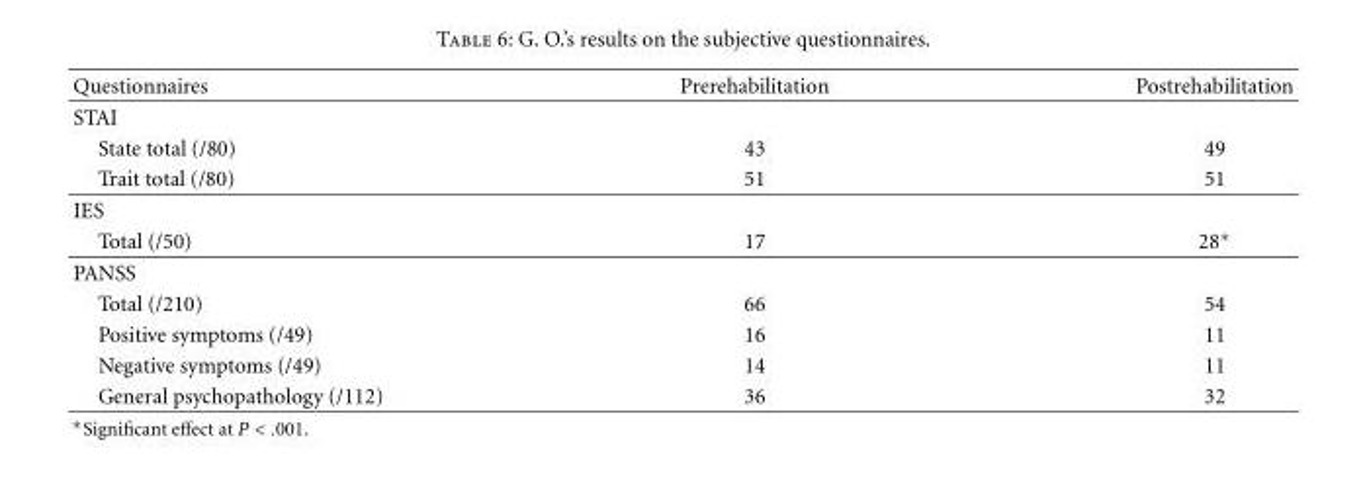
<table><thead><tr><td>Questionnaires</td><td>Prerehabilitation</td><td>Postrehabilitation</td></tr></thead><tbody><tr><td colspan="3">STAI</td></tr><tr><td>State total (/80)</td><td>43</td><td>49</td></tr><tr><td>Trait total (/80)</td><td>51</td><td>51</td></tr><tr><td colspan="3">IES</td></tr><tr><td>Total (/50)</td><td>17</td><td>28∗</td></tr><tr><td colspan="3">PANSS</td></tr><tr><td>Total (/210)</td><td>66</td><td>54</td></tr><tr><td>Positive symptoms (/49)</td><td>16</td><td>11</td></tr><tr><td>Negative symptoms (/49)</td><td>14</td><td>11</td></tr><tr><td>General psychopathology (/112)</td><td>36</td><td>32</td></tr></tbody></table>